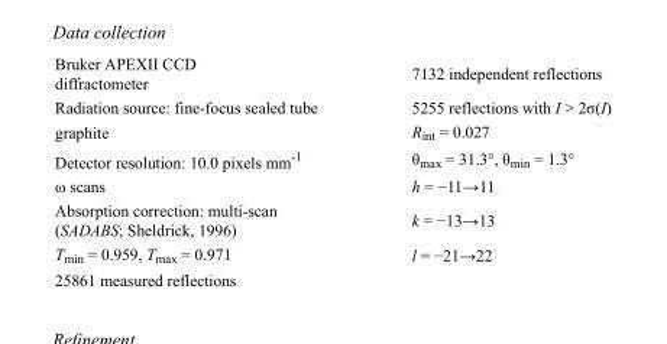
<table><tbody><tr><td>Bruker APEXII CCD diffractometer</td><td>7132 independent reflections</td></tr><tr><td>Radiation source: fine-focus sealed tube</td><td>5255 reflections with I &gt; 2σ(I)</td></tr><tr><td>graphite</td><td>R<sub>int</sub> = 0.027</td></tr><tr><td>Detector resolution: 10.0 pixels mm<sup>-1</sup></td><td>θ<sub>max</sub> = 31.3°, θ<sub>min</sub> = 1.3°</td></tr><tr><td>ω scans</td><td>h = −11→11</td></tr><tr><td>Absorption correction: multi-scan (SADABS; Sheldrick, 1996)</td><td>k = −13→13</td></tr><tr><td>T<sub>min</sub> = 0.959, T<sub>max</sub> = 0.971</td><td>l = −21→22</td></tr><tr><td>25861 measured reflections</td><td></td></tr></tbody></table>